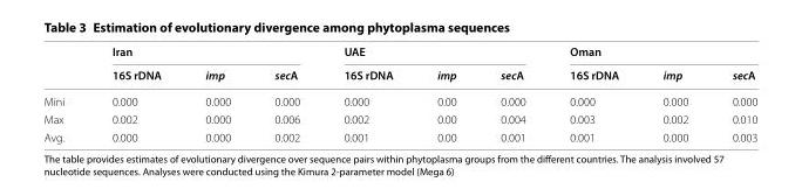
<table><thead><tr><td rowspan="2"></td><td colspan="3">Iran</td><td colspan="3">UAE</td><td colspan="3">Oman</td></tr><tr><td>16S rDNA</td><td>imp</td><td>secA</td><td>16S rDNA</td><td>imp</td><td>secA</td><td>16S rDNA</td><td>imp</td><td>secA</td></tr></thead><tbody><tr><td>Mini</td><td>0.000</td><td>0.000</td><td>0.000</td><td>0.000</td><td>0.00</td><td>0.000</td><td>0.000</td><td>0.000</td><td>0.000</td></tr><tr><td>Max</td><td>0.002</td><td>0.000</td><td>0.006</td><td>0.002</td><td>0.00</td><td>0.004</td><td>0.003</td><td>0.002</td><td>0.010</td></tr><tr><td>Avg.</td><td>0.000</td><td>0.000</td><td>0.002</td><td>0.001</td><td>0.00</td><td>0.001</td><td>0.001</td><td>0.000</td><td>0.003</td></tr></tbody></table>